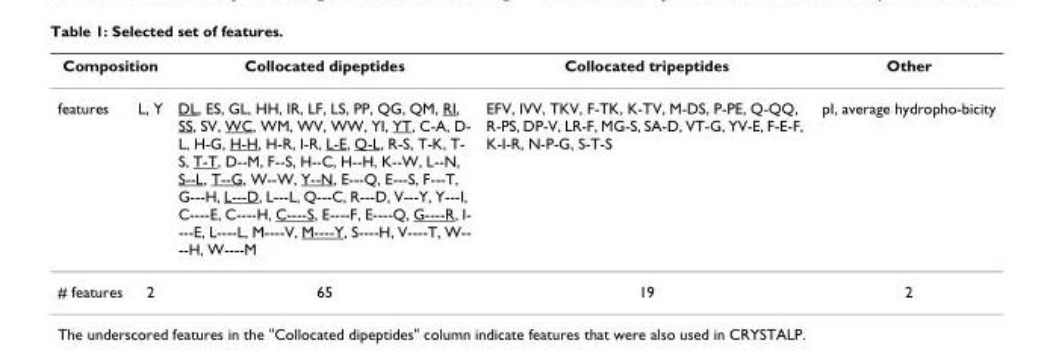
<table><thead><tr><td colspan="2">Composition</td><td rowspan="2">Collocated dipeptides DL, ES, GL, HH, IR, LF, LS, PP, QG, QM, RI, SS, SV, WC, WM, WV, WW, YI, YT, C-A, D- L, H-G, H-H, H-R, I-R, L-E, Q-L, R-S, T-K, T- S, T-T, D--M, F--S, H--C, H--H, K--W, L--N, S--L, T--G, W--W, Y--N, E---Q, E---S, F---T, G---H, L---D, L---L, Q---C, R---D, V---Y, Y---I, C----E, C----H, C----S, E----F, E----Q, G----R, I- ---E, L----L, M----V, M----Y, S----H, V----T, W-- --H, W----M</td><td rowspan="2">Collocated tripeptides EFV, IVV, TKV, F-TK, K-TV, M-DS, P-PE, Q-QQ, R-PS, DP-V, LR-F, MG-S, SA-D, VT-G, YV-E, F-E-F, K-I-R, N-P-G, S-T-S</td><td rowspan="2">Other pI, average hydropho-bicity</td></tr><tr><td>features</td><td>L, Y</td></tr></thead><tbody><tr><td># features</td><td>2</td><td>65</td><td>19</td><td>2</td></tr></tbody></table>